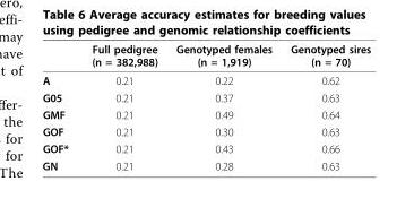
<table><thead><tr><td></td><td>Full pedigree (n = 382,988)</td><td>Genotyped females (n = 1,919)</td><td>Genotyped sires (n = 70)</td></tr></thead><tbody><tr><td>A</td><td>0.21</td><td>0.22</td><td>0.62</td></tr><tr><td>G05</td><td>0.21</td><td>0.37</td><td>0.63</td></tr><tr><td>GMF</td><td>0.21</td><td>0.49</td><td>0.64</td></tr><tr><td>GOF</td><td>0.21</td><td>0.30</td><td>0.63</td></tr><tr><td>GOF*</td><td>0.21</td><td>0.43</td><td>0.66</td></tr><tr><td>GN</td><td>0.21</td><td>0.28</td><td>0.63</td></tr></tbody></table>